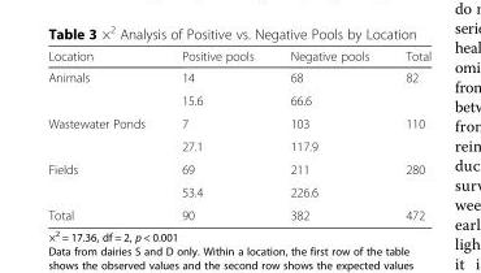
<table><thead><tr><td>Location</td><td>Positive pools</td><td>Negative pools</td><td>Total</td></tr></thead><tbody><tr><td rowspan="2">Animals</td><td>14</td><td>68</td><td>82</td></tr><tr><td>15.6</td><td>66.6</td><td></td></tr><tr><td rowspan="2">Wastewater Ponds</td><td>7</td><td>103</td><td>110</td></tr><tr><td>27.1</td><td>117.9</td><td></td></tr><tr><td rowspan="2">Fields</td><td>69</td><td>211</td><td>280</td></tr><tr><td>53.4</td><td>226.6</td><td></td></tr><tr><td>Total</td><td>90</td><td>382</td><td>472</td></tr></tbody></table>